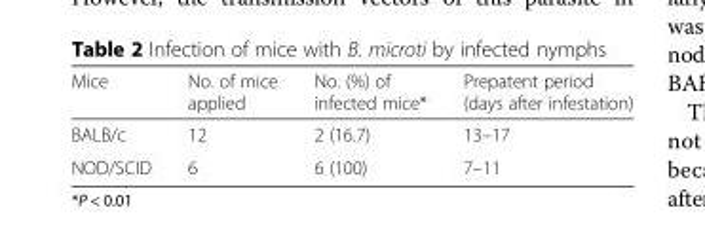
<table><thead><tr><td>Mice</td><td>No. of mice applied</td><td>No. (%) of infected mice*</td><td>Prepatent period (days after infestation)</td></tr></thead><tbody><tr><td>BALB/c</td><td>12</td><td>2 (16.7)</td><td>13–17</td></tr><tr><td>NOD/SCID</td><td>6</td><td>6 (100)</td><td>7–11</td></tr></tbody></table>